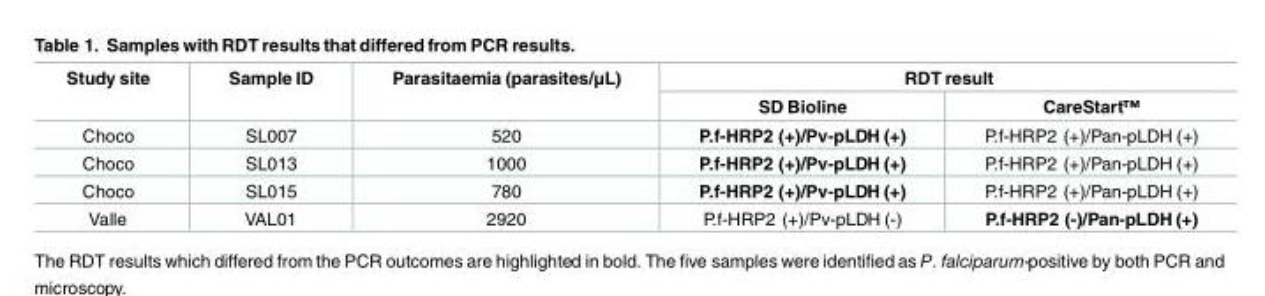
<table><thead><tr><td rowspan="2">Study site</td><td rowspan="2">Sample ID</td><td rowspan="2">Parasitaemia (parasites/μL)</td><td colspan="2">RDT result</td></tr><tr><td>SD Bioline</td><td>CareStart™</td></tr></thead><tbody><tr><td>Choco</td><td>SL007</td><td>520</td><td>P.f-HRP2 (+)/Pv-pLDH (+)</td><td>P.f-HRP2 (+)/Pan-pLDH (+)</td></tr><tr><td>Choco</td><td>SL013</td><td>1000</td><td>P.f-HRP2 (+)/Pv-pLDH (+)</td><td>P.f-HRP2 (+)/Pan-pLDH (+)</td></tr><tr><td>Choco</td><td>SL015</td><td>780</td><td>P.f-HRP2 (+)/Pv-pLDH (+)</td><td>P.f-HRP2 (+)/Pan-pLDH (+)</td></tr><tr><td>Valle</td><td>VAL01</td><td>2920</td><td>P.f-HRP2 (+)/Pv-pLDH (-)</td><td>P.f-HRP2 (-)/Pan-pLDH (+)</td></tr></tbody></table>